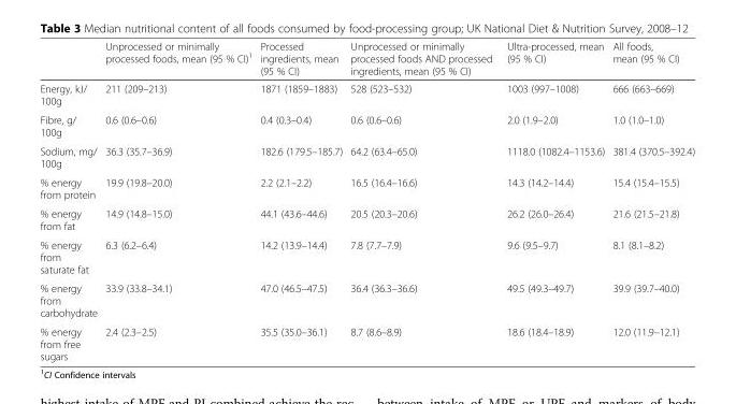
<table><thead><tr><td></td><td>Unprocessed or minimally processed foods, mean (95 % CI)<sup>1</sup></td><td>Processed ingredients, mean (95 % CI)</td><td>Unprocessed or minimally processed foods AND processed ingredients, mean (95 % CI)</td><td>Ultra-processed, mean (95 % CI)</td><td>All foods, mean (95 % CI)</td></tr></thead><tbody><tr><td>Energy, kJ/ 100g</td><td>211 (209–213)</td><td>1871 (1859–1883)</td><td>528 (523–532)</td><td>1003 (997–1008)</td><td>666 (663–669)</td></tr><tr><td>Fibre, g/ 100g</td><td>0.6 (0.6–0.6)</td><td>0.4 (0.3–0.4)</td><td>0.6 (0.6–0.6)</td><td>2.0 (1.9–2.0)</td><td>1.0 (1.0–1.0)</td></tr><tr><td>Sodium, mg/ 100g</td><td>36.3 (35.7–36.9)</td><td>182.6 (179.5–185.7)</td><td>64.2 (63.4–65.0)</td><td>1118.0 (1082.4–1153.6)</td><td>381.4 (370.5–392.4)</td></tr><tr><td>% energy from protein</td><td>19.9 (19.8–20.0)</td><td>2.2 (2.1–2.2)</td><td>16.5 (16.4–16.6)</td><td>14.3 (14.2–14.4)</td><td>15.4 (15.4–15.5)</td></tr><tr><td>% energy from fat</td><td>14.9 (14.8–15.0)</td><td>44.1 (43.6–44.6)</td><td>20.5 (20.3–20.6)</td><td>26.2 (26.0–26.4)</td><td>21.6 (21.5–21.8)</td></tr><tr><td>% energy from saturate fat</td><td>6.3 (6.2–6.4)</td><td>14.2 (13.9–14.4)</td><td>7.8 (7.7–7.9)</td><td>9.6 (9.5–9.7)</td><td>8.1 (8.1–8.2)</td></tr><tr><td>% energy from carbohydrate</td><td>33.9 (33.8–34.1)</td><td>47.0 (46.5–47.5)</td><td>36.4 (36.3–36.6)</td><td>49.5 (49.3–49.7)</td><td>39.9 (39.7–40.0)</td></tr><tr><td>% energy from free sugars</td><td>2.4 (2.3–2.5)</td><td>35.5 (35.0–36.1)</td><td>8.7 (8.6–8.9)</td><td>18.6 (18.4–18.9)</td><td>12.0 (11.9–12.1)</td></tr></tbody></table>